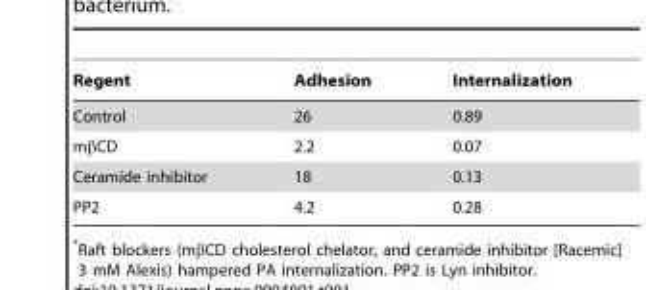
<table><thead><tr><td>Regent</td><td>Adhesion</td><td>Internalization</td></tr></thead><tbody><tr><td>Control</td><td>26</td><td>0.89</td></tr><tr><td>mβCD</td><td>2.2</td><td>0.07</td></tr><tr><td>Ceramide inhibitor</td><td>18</td><td>0.13</td></tr><tr><td>PP2</td><td>4.2</td><td>0.28</td></tr></tbody></table>